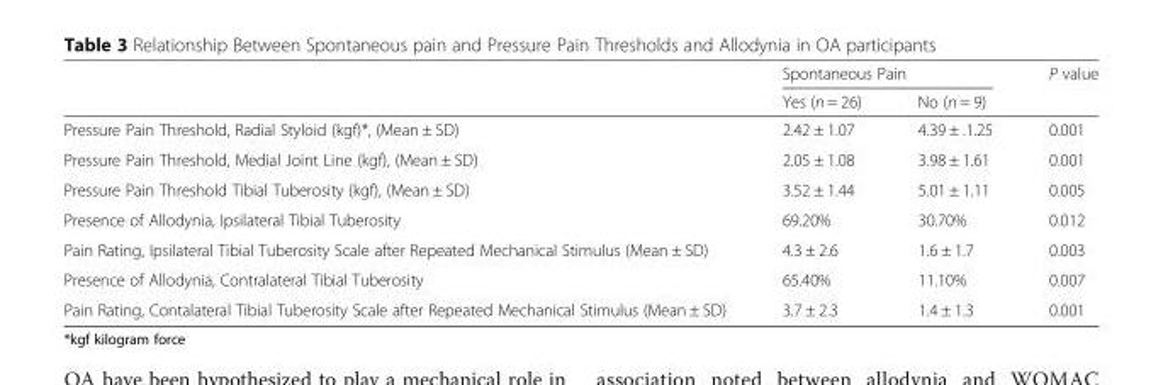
<table><thead><tr><td rowspan="2"></td><td colspan="2">Spontaneous Pain</td><td rowspan="2">P value</td></tr><tr><td>Yes (n = 26)</td><td>No (n = 9)</td></tr></thead><tbody><tr><td>Pressure Pain Threshold, Radial Styloid (kgf)*, (Mean ± SD)</td><td>2.42 ± 1.07</td><td>4.39 ± .1.25</td><td>0.001</td></tr><tr><td>Pressure Pain Threshold, Medial Joint Line (kgf), (Mean ± SD)</td><td>2.05 ± 1.08</td><td>3.98 ± 1.61</td><td>0.001</td></tr><tr><td>Pressure Pain Threshold Tibial Tuberosity (kgf), (Mean ± SD)</td><td>3.52 ± 1.44</td><td>5.01 ± 1.11</td><td>0.005</td></tr><tr><td>Presence of Allodynia, Ipsilateral Tibial Tuberosity</td><td>69.20%</td><td>30.70%</td><td>0.012</td></tr><tr><td>Pain Rating, Ipsilateral Tibial Tuberosity Scale after Repeated Mechanical Stimulus (Mean ± SD)</td><td>4.3 ± 2.6</td><td>1.6 ± 1.7</td><td>0.003</td></tr><tr><td>Presence of Allodynia, Contralateral Tibial Tuberosity</td><td>65.40%</td><td>11.10%</td><td>0.007</td></tr><tr><td>Pain Rating, Contalateral Tibial Tuberosity Scale after Repeated Mechanical Stimulus (Mean ± SD)</td><td>3.7 ± 2.3</td><td>1.4 ± 1.3</td><td>0.001</td></tr></tbody></table>